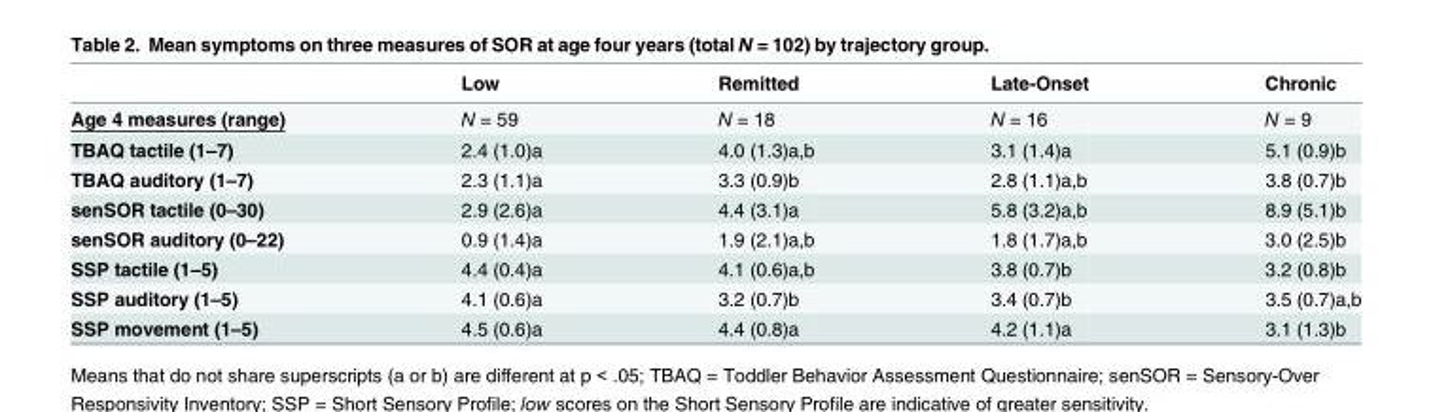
<table><thead><tr><td></td><td>Low</td><td>Remitted</td><td>Late-Onset</td><td>Chronic</td></tr></thead><tbody><tr><td>Age 4 measures (range)</td><td>N = 59</td><td>N = 18</td><td>N = 16</td><td>N = 9</td></tr><tr><td>TBAQ tactile (1–7)</td><td>2.4 (1.0)a</td><td>4.0 (1.3)a,b</td><td>3.1 (1.4)a</td><td>5.1 (0.9)b</td></tr><tr><td>TBAQ auditory (1–7)</td><td>2.3 (1.1)a</td><td>3.3 (0.9)b</td><td>2.8 (1.1)a,b</td><td>3.8 (0.7)b</td></tr><tr><td>senSOR tactile (0–30)</td><td>2.9 (2.6)a</td><td>4.4 (3.1)a</td><td>5.8 (3.2)a,b</td><td>8.9 (5.1)b</td></tr><tr><td>senSOR auditory (0–22)</td><td>0.9 (1.4)a</td><td>1.9 (2.1)a,b</td><td>1.8 (1.7)a,b</td><td>3.0 (2.5)b</td></tr><tr><td>SSP tactile (1–5)</td><td>4.4 (0.4)a</td><td>4.1 (0.6)a,b</td><td>3.8 (0.7)b</td><td>3.2 (0.8)b</td></tr><tr><td>SSP auditory (1–5)</td><td>4.1 (0.6)a</td><td>3.2 (0.7)b</td><td>3.4 (0.7)b</td><td>3.5 (0.7)a,b</td></tr><tr><td>SSP movement (1–5)</td><td>4.5 (0.6)a</td><td>4.4 (0.8)a</td><td>4.2 (1.1)a</td><td>3.1 (1.3)b</td></tr></tbody></table>